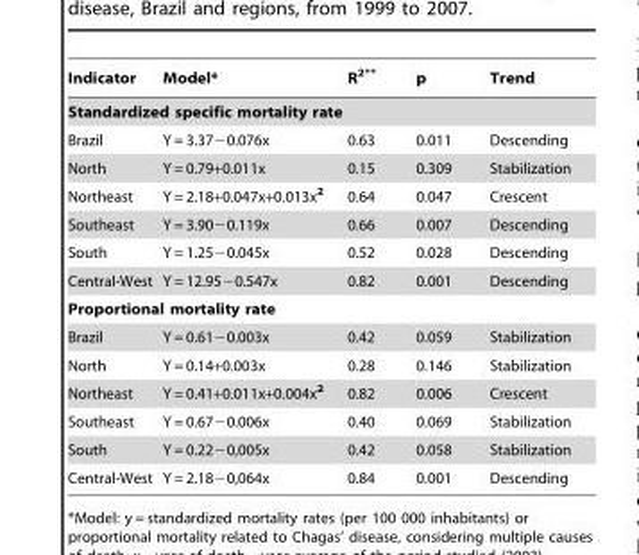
<table><thead><tr><td>Indicator</td><td>Model*</td><td>R<sup>2</sup>**</td><td>p</td><td>Trend</td></tr></thead><tbody><tr><td colspan="5">Standardized specific mortality rate</td></tr><tr><td>Brazil</td><td>Y = 3.37−0.076x</td><td>0.63</td><td>0.011</td><td>Descending</td></tr><tr><td>North</td><td>Y = 0.79+0.011x</td><td>0.15</td><td>0.309</td><td>Stabilization</td></tr><tr><td>Northeast</td><td>Y = 2.18+0.047x+0.013x<sup>2</sup></td><td>0.64</td><td>0.047</td><td>Crescent</td></tr><tr><td>Southeast</td><td>Y = 3.90−0.119x</td><td>0.66</td><td>0.007</td><td>Descending</td></tr><tr><td>South</td><td>Y = 1.25−0.045x</td><td>0.52</td><td>0.028</td><td>Descending</td></tr><tr><td>Central-West</td><td>Y = 12.95−0.547x</td><td>0.82</td><td>0.001</td><td>Descending</td></tr><tr><td colspan="5">Proportional mortality rate</td></tr><tr><td>Brazil</td><td>Y = 0.61−0.003x</td><td>0.42</td><td>0.059</td><td>Stabilization</td></tr><tr><td>North</td><td>Y = 0.14+0.003x</td><td>0.28</td><td>0.146</td><td>Stabilization</td></tr><tr><td>Northeast</td><td>Y = 0.41+0.011x+0.004x<sup>2</sup></td><td>0.82</td><td>0.006</td><td>Crescent</td></tr><tr><td>Southeast</td><td>Y = 0.67−0.006x</td><td>0.40</td><td>0.069</td><td>Stabilization</td></tr><tr><td>South</td><td>Y = 0.22−0,005x</td><td>0.42</td><td>0.058</td><td>Stabilization</td></tr><tr><td>Central-West</td><td>Y = 2.18−0,064x</td><td>0.84</td><td>0.001</td><td>Descending</td></tr></tbody></table>